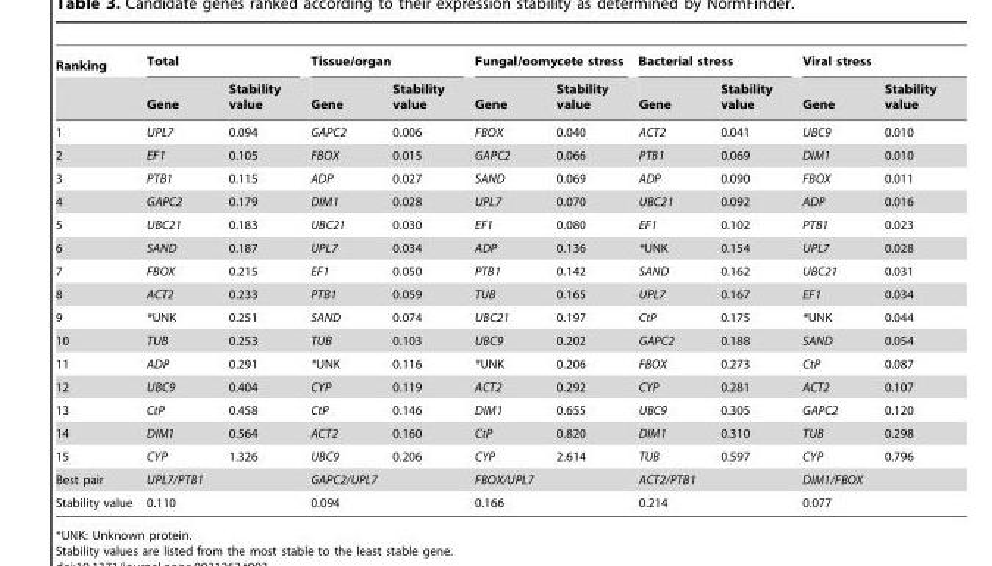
<table><thead><tr><td rowspan="2">Ranking</td><td colspan="2">Total</td><td colspan="2">Tissue/organ</td><td colspan="2">Fungal/oomycete stress</td><td colspan="2">Bacterial stress</td><td colspan="2">Viral stress</td></tr><tr><td>Gene</td><td>Stability value</td><td>Gene</td><td>Stability value</td><td>Gene</td><td>Stability value</td><td>Gene</td><td>Stability value</td><td>Gene</td><td>Stability value</td></tr></thead><tbody><tr><td>1</td><td>UPL7</td><td>0.094</td><td>GAPC2</td><td>0.006</td><td>FBOX</td><td>0.040</td><td>ACT2</td><td>0.041</td><td>UBC9</td><td>0.010</td></tr><tr><td>2</td><td>EF1</td><td>0.105</td><td>FBOX</td><td>0.015</td><td>GAPC2</td><td>0.066</td><td>PTB1</td><td>0.069</td><td>DIM1</td><td>0.010</td></tr><tr><td>3</td><td>PTB1</td><td>0.115</td><td>ADP</td><td>0.027</td><td>SAND</td><td>0.069</td><td>ADP</td><td>0.090</td><td>FBOX</td><td>0.011</td></tr><tr><td>4</td><td>GAPC2</td><td>0.179</td><td>DIM1</td><td>0.028</td><td>UPL7</td><td>0.070</td><td>UBC21</td><td>0.092</td><td>ADP</td><td>0.016</td></tr><tr><td>5</td><td>UBC21</td><td>0.183</td><td>UBC21</td><td>0.030</td><td>EF1</td><td>0.080</td><td>EF1</td><td>0.102</td><td>PTB1</td><td>0.023</td></tr><tr><td>6</td><td>SAND</td><td>0.187</td><td>UPL7</td><td>0.034</td><td>ADP</td><td>0.136</td><td>*UNK</td><td>0.154</td><td>UPL7</td><td>0.028</td></tr><tr><td>7</td><td>FBOX</td><td>0.215</td><td>EF1</td><td>0.050</td><td>PTB1</td><td>0.142</td><td>SAND</td><td>0.162</td><td>UBC21</td><td>0.031</td></tr><tr><td>8</td><td>ACT2</td><td>0.233</td><td>PTB1</td><td>0.059</td><td>TUB</td><td>0.165</td><td>UPL7</td><td>0.167</td><td>EF1</td><td>0.034</td></tr><tr><td>9</td><td>*UNK</td><td>0.251</td><td>SAND</td><td>0.074</td><td>UBC21</td><td>0.197</td><td>CtP</td><td>0.175</td><td>*UNK</td><td>0.044</td></tr><tr><td>10</td><td>TUB</td><td>0.253</td><td>TUB</td><td>0.103</td><td>UBC9</td><td>0.202</td><td>GAPC2</td><td>0.188</td><td>SAND</td><td>0.054</td></tr><tr><td>11</td><td>ADP</td><td>0.291</td><td>*UNK</td><td>0.116</td><td>*UNK</td><td>0.206</td><td>FBOX</td><td>0.273</td><td>CtP</td><td>0.087</td></tr><tr><td>12</td><td>UBC9</td><td>0.404</td><td>CYP</td><td>0.119</td><td>ACT2</td><td>0.292</td><td>CYP</td><td>0.281</td><td>ACT2</td><td>0.107</td></tr><tr><td>13</td><td>CtP</td><td>0.458</td><td>CtP</td><td>0.146</td><td>DIM1</td><td>0.655</td><td>UBC9</td><td>0.305</td><td>GAPC2</td><td>0.120</td></tr><tr><td>14</td><td>DIM1</td><td>0.564</td><td>ACT2</td><td>0.160</td><td>CtP</td><td>0.820</td><td>DIM1</td><td>0.310</td><td>TUB</td><td>0.298</td></tr><tr><td>15</td><td>CYP</td><td>1.326</td><td>UBC9</td><td>0.206</td><td>CYP</td><td>2.614</td><td>TUB</td><td>0.597</td><td>CYP</td><td>0.796</td></tr><tr><td>Best pair</td><td colspan="2">UPL7/PTB1</td><td colspan="2">GAPC2/UPL7</td><td colspan="2">FBOX/UPL7</td><td colspan="2">ACT2/PTB1</td><td colspan="2">DIM1/FBOX</td></tr><tr><td>Stability value</td><td colspan="2">0.110</td><td colspan="2">0.094</td><td colspan="2">0.166</td><td colspan="2">0.214</td><td colspan="2">0.077</td></tr></tbody></table>